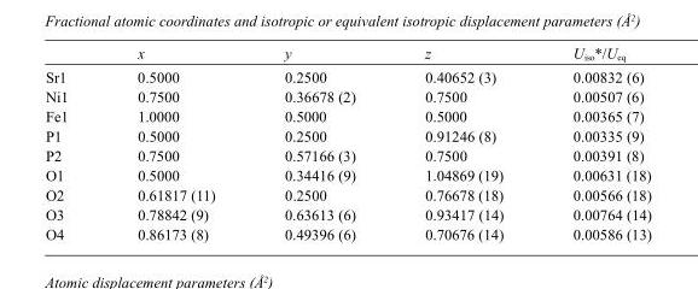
<table><thead><tr><td></td><td>x</td><td>y</td><td>z</td><td>U<sub>iso</sub>*/U<sub>eq</sub></td></tr></thead><tbody><tr><td>Sr1</td><td>0.5000</td><td>0.2500</td><td>0.40652 (3)</td><td>0.00832 (6)</td></tr><tr><td>Ni1</td><td>0.7500</td><td>0.36678 (2)</td><td>0.7500</td><td>0.00507 (6)</td></tr><tr><td>Fe1</td><td>1.0000</td><td>0.5000</td><td>0.5000</td><td>0.00365 (7)</td></tr><tr><td>P1</td><td>0.5000</td><td>0.2500</td><td>0.91246 (8)</td><td>0.00335 (9)</td></tr><tr><td>P2</td><td>0.7500</td><td>0.57166 (3)</td><td>0.7500</td><td>0.00391 (8)</td></tr><tr><td>O1</td><td>0.5000</td><td>0.34416 (9)</td><td>1.04869 (19)</td><td>0.00631 (18)</td></tr><tr><td>O2</td><td>0.61817 (11)</td><td>0.2500</td><td>0.76678 (18)</td><td>0.00566 (18)</td></tr><tr><td>O3</td><td>0.78842 (9)</td><td>0.63613 (6)</td><td>0.93417 (14)</td><td>0.00764 (14)</td></tr><tr><td>O4</td><td>0.86173 (8)</td><td>0.49396 (6)</td><td>0.70676 (14)</td><td>0.00586 (13)</td></tr></tbody></table>